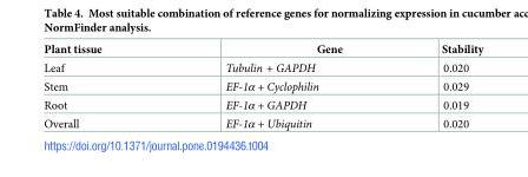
<table><thead><tr><td>Plant tissue</td><td>Gene</td><td>Stability</td></tr></thead><tbody><tr><td>Leaf</td><td>Tubulin + GAPDH</td><td>0.020</td></tr><tr><td>Stem</td><td>EF-1α + Cyclophilin</td><td>0.029</td></tr><tr><td>Root</td><td>EF-1α + GAPDH</td><td>0.019</td></tr><tr><td>Overall</td><td>EF-1α + Ubiquitin</td><td>0.020</td></tr></tbody></table>